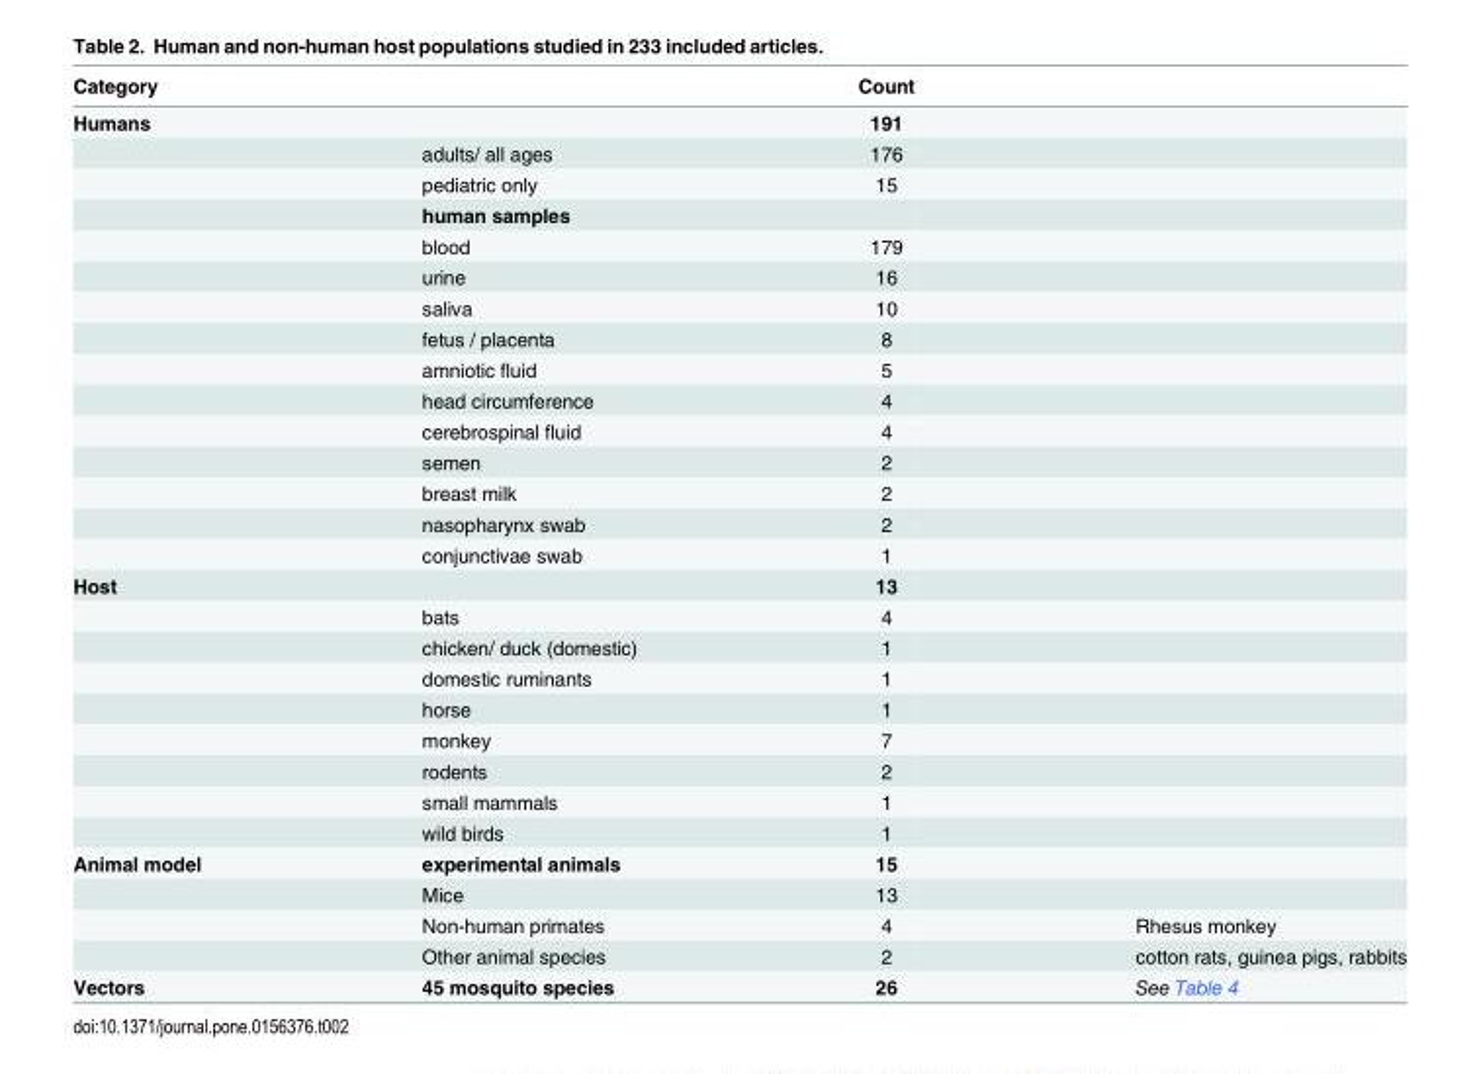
<table><thead><tr><td>Category</td><td></td><td>Count</td><td></td></tr></thead><tbody><tr><td rowspan="15">Humans</td><td></td><td>191</td><td></td></tr><tr><td>adults/ all ages</td><td>176</td><td></td></tr><tr><td>pediatric only</td><td>15</td><td></td></tr><tr><td>human samples</td><td></td><td></td></tr><tr><td>blood</td><td>179</td><td></td></tr><tr><td>urine</td><td>16</td><td></td></tr><tr><td>saliva</td><td>10</td><td></td></tr><tr><td>fetus / placenta</td><td>8</td><td></td></tr><tr><td>amniotic fluid</td><td>5</td><td></td></tr><tr><td>head circumference</td><td>4</td><td></td></tr><tr><td>cerebrospinal fluid</td><td>4</td><td></td></tr><tr><td>semen</td><td>2</td><td></td></tr><tr><td>breast milk</td><td>2</td><td></td></tr><tr><td>nasopharynx swab</td><td>2</td><td></td></tr><tr><td>conjunctivae swab</td><td>1</td><td></td></tr><tr><td rowspan="9">Host</td><td></td><td>13</td><td></td></tr><tr><td>bats</td><td>4</td><td></td></tr><tr><td>chicken/ duck (domestic)</td><td>1</td><td></td></tr><tr><td>domestic ruminants</td><td>1</td><td></td></tr><tr><td>horse</td><td>1</td><td></td></tr><tr><td>monkey</td><td>7</td><td></td></tr><tr><td>rodents</td><td>2</td><td></td></tr><tr><td>small mammals</td><td>1</td><td></td></tr><tr><td>wild birds</td><td>1</td><td></td></tr><tr><td rowspan="4">Animal model</td><td>experimental animals</td><td>15</td><td></td></tr><tr><td>Mice</td><td>13</td><td></td></tr><tr><td>Non-human primates</td><td>4</td><td>Rhesus monkey</td></tr><tr><td>Other animal species</td><td>2</td><td>cotton rats, guinea pigs, rabbits</td></tr><tr><td>Vectors</td><td>45 mosquito species</td><td>26</td><td>See Table 4</td></tr></tbody></table>